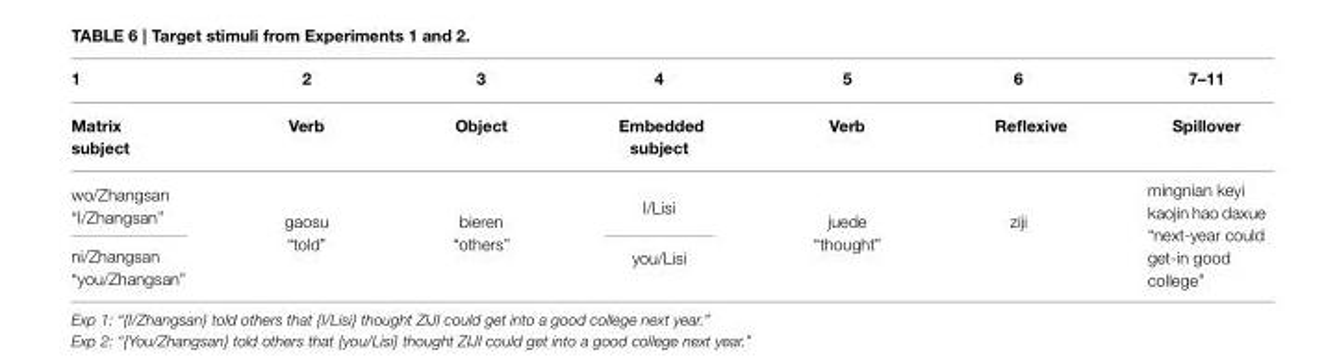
<table><thead><tr><td rowspan="2">1 Matrix subject</td><td rowspan="2">2 Verb</td><td rowspan="2">3 Object</td><td rowspan="2">4 Embedded subject</td><td rowspan="2">5 Verb</td><td rowspan="2">6 Reflexive</td><td rowspan="2">7–11 Spillover</td></tr><tr></tr></thead><tbody><tr><td>wo/Zhangsan “I/Zhangsan”</td><td rowspan="2">gaosu “told”</td><td rowspan="2">bieren “others”</td><td>I/Lisi</td><td rowspan="2">juede “thought”</td><td rowspan="2">ziji</td><td rowspan="2">mingnian keyi kaojin hao daxue “next-year could get-in good college”</td></tr><tr><td>ni/Zhangsan “you/Zhangsan”</td><td>you/Lisi</td></tr></tbody></table>